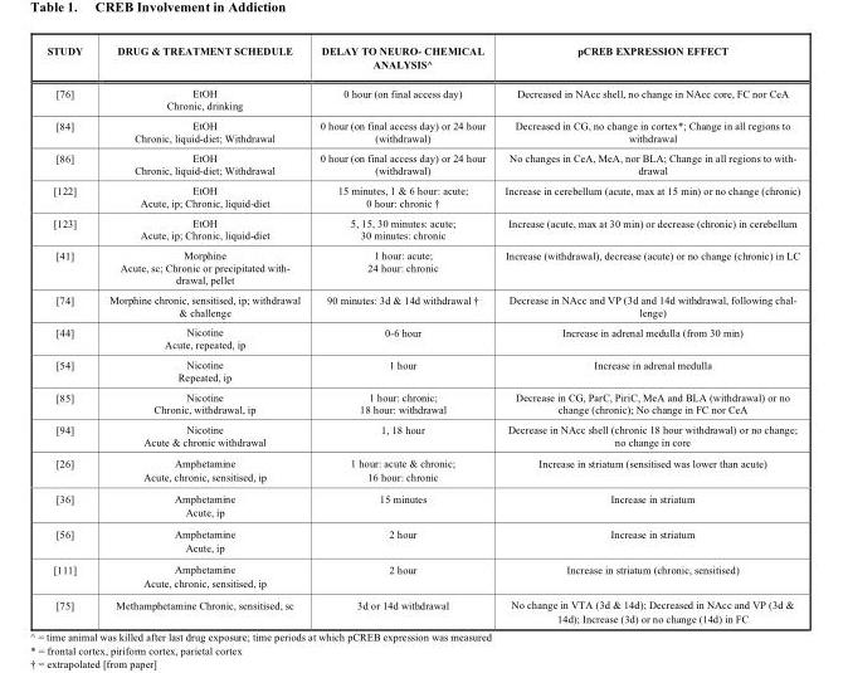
<table><thead><tr><td>STUDY</td><td>DRUG &amp; TREATMENT SCHEDULE</td><td>DELAY TO NEURO- CHEMICAL ANALYSIS^</td><td>pCREB EXPRESSION EFFECT</td></tr></thead><tbody><tr><td>[76]</td><td>EtOH Chronic, drinking</td><td>0 hour (on final access day)</td><td>Decreased in NAcc shell, no change in NAcc core, FC nor CeA</td></tr><tr><td>[84]</td><td>EtOH Chronic, liquid-diet; Withdrawal</td><td>0 hour (on final access day) or 24 hour (withdrawal)</td><td>Decreased in CG, no change in cortex*; Change in all regions to withdrawal</td></tr><tr><td>[86]</td><td>EtOH Chronic, liquid-diet; Withdrawal</td><td>0 hour (on final access day) or 24 hour (withdrawal)</td><td>No changes in CeA, MeA, nor BLA; Change in all regions to with- drawal</td></tr><tr><td>[122]</td><td>EtOH Acute, ip; Chronic, liquid-diet</td><td>15 minutes, 1 &amp; 6 hour: acute; 0 hour: chronic †</td><td>Increase in cerebellum (acute, max at 15 min) or no change (chronic)</td></tr><tr><td>[123]</td><td>EtOH Acute, ip; Chronic, liquid-diet</td><td>5, 15, 30 minutes: acute; 30 minutes: chronic</td><td>Increase (acute, max at 30 min) or decrease (chronic) in cerebellum</td></tr><tr><td>[41]</td><td>Morphine Acute, sc; Chronic or precipitated with- drawal, pellet</td><td>1 hour: acute; 24 hour: chronic</td><td>Increase (withdrawal), decrease (acute) or no change (chronic) in LC</td></tr><tr><td>[74]</td><td>Morphine chronic, sensitised, ip; withdrawal &amp; challenge</td><td>90 minutes: 3d &amp; 14d withdrawal †</td><td>Decrease in NAcc and VP (3d and 14d withdrawal, following chal- lenge)</td></tr><tr><td>[44]</td><td>Nicotine Acute, repeated, ip</td><td>0-6 hour</td><td>Increase in adrenal medulla (from 30 min)</td></tr><tr><td>[54]</td><td>Nicotine Repeated, ip</td><td>1 hour</td><td>Increase in adrenal medulla</td></tr><tr><td>[85]</td><td>Nicotine Chronic, withdrawal, ip</td><td>1 hour: chronic; 18 hour: withdrawal</td><td>Decrease in CG, ParC, PiriC, MeA and BLA (withdrawal) or no change (chronic); No change in FC nor CeA</td></tr><tr><td>[94]</td><td>Nicotine Acute &amp; chronic withdrawal</td><td>1, 18 hour</td><td>Decrease in NAcc shell (chronic 18 hour withdrawal) or no change; no change in core</td></tr><tr><td>[26]</td><td>Amphetamine Acute, chronic, sensitised, ip</td><td>1 hour: acute &amp; chronic; 16 hour: chronic</td><td>Increase in striatum (sensitised was lower than acute)</td></tr><tr><td>[36]</td><td>Amphetamine Acute, ip</td><td>15 minutes</td><td>Increase in striatum</td></tr><tr><td>[56]</td><td>Amphetamine Acute, ip</td><td>2 hour</td><td>Increase in striatum</td></tr><tr><td>[111]</td><td>Amphetamine Acute, chronic, sensitised, ip</td><td>2 hour</td><td>Increase in striatum (chronic, sensitised)</td></tr><tr><td>[75]</td><td>Methamphetamine Chronic, sensitised, sc</td><td>3d or 14d withdrawal</td><td>No change in VTA (3d &amp; 14d); Decreased in NAcc and VP (3d &amp; 14d); Increase (3d) or no change (14d) in FC</td></tr></tbody></table>